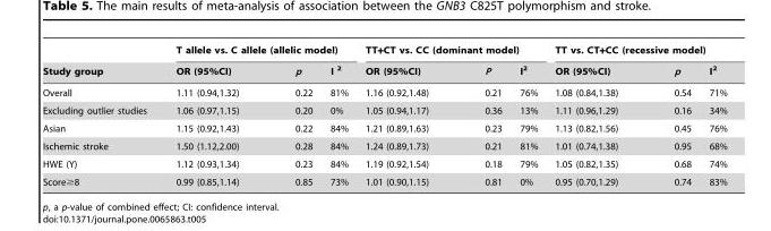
<table><thead><tr><td rowspan="2">Study group</td><td colspan="3">T allele vs. C allele (allelic model)</td><td colspan="3">TT+CT vs. CC (dominant model)</td><td colspan="3">TT vs. CT+CC (recessive model)</td></tr><tr><td>OR (95%CI)</td><td>p</td><td>I <sup>2</sup></td><td>OR (95%CI)</td><td>P</td><td>I<sup>2</sup></td><td>OR (95%CI)</td><td>p</td><td>I<sup>2</sup></td></tr></thead><tbody><tr><td>Overall</td><td>1.11 (0.94,1.32)</td><td>0.22</td><td>81%</td><td>1.16 (0.92,1.48)</td><td>0.21</td><td>76%</td><td>1.08 (0.84,1.38)</td><td>0.54</td><td>71%</td></tr><tr><td>Excluding outlier studies</td><td>1.06 (0.97,1.15)</td><td>0.20</td><td>0%</td><td>1.05 (0.94,1.17)</td><td>0.36</td><td>13%</td><td>1.11 (0.96,1.29)</td><td>0.16</td><td>34%</td></tr><tr><td>Asian</td><td>1.15 (0.92,1.43)</td><td>0.22</td><td>84%</td><td>1.21 (0.89,1.63)</td><td>0.23</td><td>79%</td><td>1.13 (0.82,1.56)</td><td>0.45</td><td>76%</td></tr><tr><td>Ischemic stroke</td><td>1.50 (1.12,2.00)</td><td>0.28</td><td>84%</td><td>1.24 (0.89,1.73)</td><td>0.21</td><td>81%</td><td>1.01 (0.74,1.38)</td><td>0.95</td><td>68%</td></tr><tr><td>HWE (Y)</td><td>1.12 (0.93,1.34)</td><td>0.23</td><td>84%</td><td>1.19 (0.92,1.54)</td><td>0.18</td><td>79%</td><td>1.05 (0.82,1.35)</td><td>0.68</td><td>74%</td></tr><tr><td>Score≥8</td><td>0.99 (0.85,1.14)</td><td>0.85</td><td>73%</td><td>1.01 (0.90,1.15)</td><td>0.81</td><td>0%</td><td>0.95 (0.70,1.29)</td><td>0.74</td><td>83%</td></tr></tbody></table>